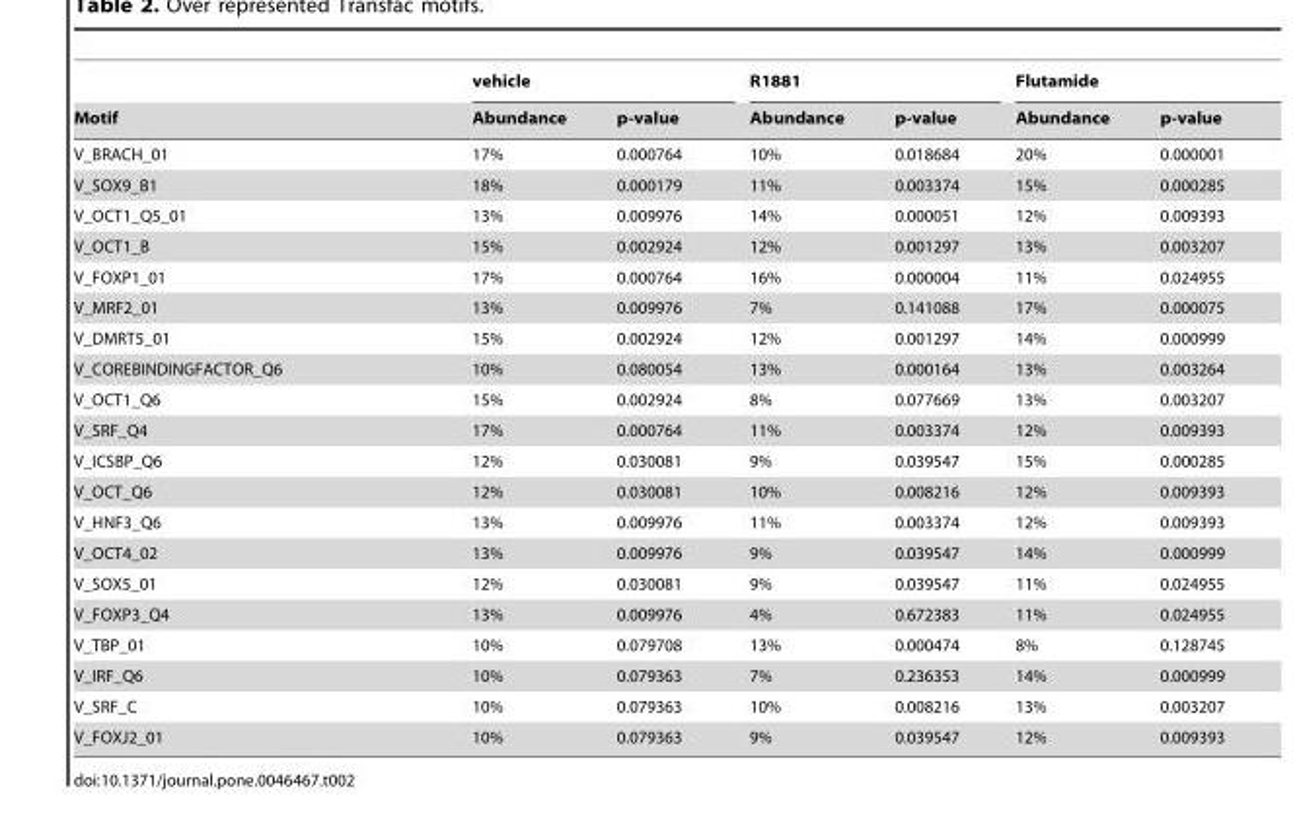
<table><thead><tr><td rowspan="2">Motif</td><td colspan="2">vehicle</td><td colspan="2">R1881</td><td colspan="2">Flutamide</td></tr><tr><td>Abundance</td><td>p-value</td><td>Abundance</td><td>p-value</td><td>Abundance</td><td>p-value</td></tr></thead><tbody><tr><td>V_BRACH_01</td><td>17%</td><td>0.000764</td><td>10%</td><td>0.018684</td><td>20%</td><td>0.000001</td></tr><tr><td>V_SOX9_B1</td><td>18%</td><td>0.000179</td><td>11%</td><td>0.003374</td><td>15%</td><td>0.000285</td></tr><tr><td>V_OCT1_Q5_01</td><td>13%</td><td>0.009976</td><td>14%</td><td>0.000051</td><td>12%</td><td>0.009393</td></tr><tr><td>V_OCT1_B</td><td>15%</td><td>0.002924</td><td>12%</td><td>0.001297</td><td>13%</td><td>0.003207</td></tr><tr><td>V_FOXP1_01</td><td>17%</td><td>0.000764</td><td>16%</td><td>0.000004</td><td>11%</td><td>0.024955</td></tr><tr><td>V_MRF2_01</td><td>13%</td><td>0.009976</td><td>7%</td><td>0.141088</td><td>17%</td><td>0.000075</td></tr><tr><td>V_DMRT5_01</td><td>15%</td><td>0.002924</td><td>12%</td><td>0.001297</td><td>14%</td><td>0.000999</td></tr><tr><td>V_COREBINDINGFACTOR_Q6</td><td>10%</td><td>0.080054</td><td>13%</td><td>0.000164</td><td>13%</td><td>0.003264</td></tr><tr><td>V_OCT1_Q6</td><td>15%</td><td>0.002924</td><td>8%</td><td>0.077669</td><td>13%</td><td>0.003207</td></tr><tr><td>V_SRF_Q4</td><td>17%</td><td>0.000764</td><td>11%</td><td>0.003374</td><td>12%</td><td>0.009393</td></tr><tr><td>V_ICSBP_Q6</td><td>12%</td><td>0.030081</td><td>9%</td><td>0.039547</td><td>15%</td><td>0.000285</td></tr><tr><td>V_OCT_Q6</td><td>12%</td><td>0.030081</td><td>10%</td><td>0.008216</td><td>12%</td><td>0.009393</td></tr><tr><td>V_HNF3_Q6</td><td>13%</td><td>0.009976</td><td>11%</td><td>0.003374</td><td>12%</td><td>0.009393</td></tr><tr><td>V_OCT4_02</td><td>13%</td><td>0.009976</td><td>9%</td><td>0.039547</td><td>14%</td><td>0.000999</td></tr><tr><td>V_SOX5_01</td><td>12%</td><td>0.030081</td><td>9%</td><td>0.039547</td><td>11%</td><td>0.024955</td></tr><tr><td>V_FOXP3_Q4</td><td>13%</td><td>0.009976</td><td>4%</td><td>0.672383</td><td>11%</td><td>0.024955</td></tr><tr><td>V_TBP_01</td><td>10%</td><td>0.079708</td><td>13%</td><td>0.000474</td><td>8%</td><td>0.128745</td></tr><tr><td>V_IRF_Q6</td><td>10%</td><td>0.079363</td><td>7%</td><td>0.236353</td><td>14%</td><td>0.000999</td></tr><tr><td>V_SRF_C</td><td>10%</td><td>0.079363</td><td>10%</td><td>0.008216</td><td>13%</td><td>0.003207</td></tr><tr><td>V_FOXJ2_01</td><td>10%</td><td>0.079363</td><td>9%</td><td>0.039547</td><td>12%</td><td>0.009393</td></tr></tbody></table>